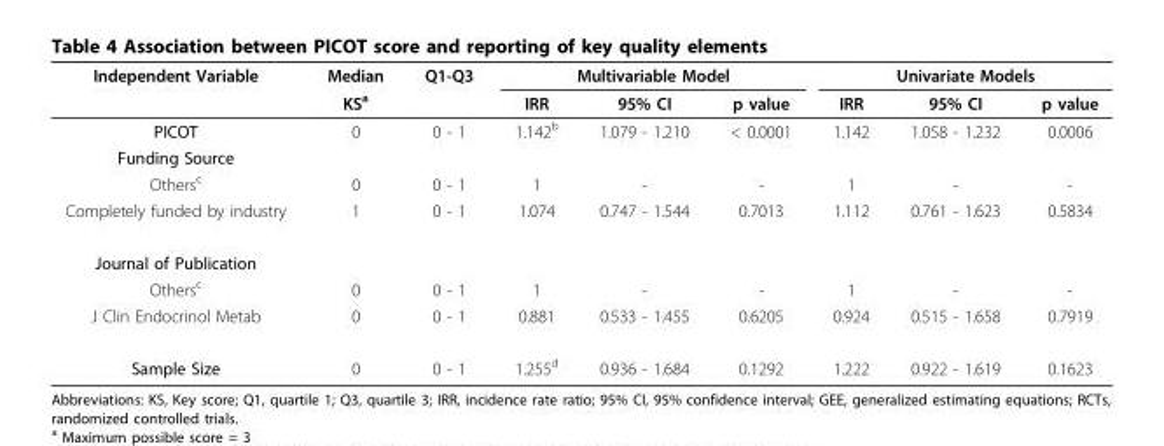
<table><thead><tr><td rowspan="2">Independent Variable</td><td rowspan="2">Median KS<sup>a</sup></td><td rowspan="2">Q1-Q3</td><td colspan="3">Multivariable Model</td><td colspan="3">Univariate Models</td></tr><tr><td>IRR</td><td>95% CI</td><td>p value</td><td>IRR</td><td>95% CI</td><td>p value</td></tr></thead><tbody><tr><td>PICOT</td><td>0</td><td>0 - 1</td><td>1.142<sup>b</sup></td><td>1.079 - 1.210</td><td>&lt; 0.0001</td><td>1.142</td><td>1.058 - 1.232</td><td>0.0006</td></tr><tr><td colspan="9">Funding Source</td></tr><tr><td>Others<sup>c</sup></td><td>0</td><td>0 - 1</td><td>1</td><td>-</td><td>-</td><td>1</td><td>-</td><td>-</td></tr><tr><td>Completely funded by industry</td><td>1</td><td>0 - 1</td><td>1.074</td><td>0.747 - 1.544</td><td>0.7013</td><td>1.112</td><td>0.761 - 1.623</td><td>0.5834</td></tr><tr><td colspan="9">Journal of Publication</td></tr><tr><td>Others<sup>c</sup></td><td>0</td><td>0 - 1</td><td>1</td><td>-</td><td>-</td><td>1</td><td>-</td><td>-</td></tr><tr><td>J Clin Endocrinol Metab</td><td>0</td><td>0 - 1</td><td>0.881</td><td>0.533 - 1.455</td><td>0.6205</td><td>0.924</td><td>0.515 - 1.658</td><td>0.7919</td></tr><tr><td>Sample Size</td><td>0</td><td>0 - 1</td><td>1.255<sup>d</sup></td><td>0.936 - 1.684</td><td>0.1292</td><td>1.222</td><td>0.922 - 1.619</td><td>0.1623</td></tr></tbody></table>